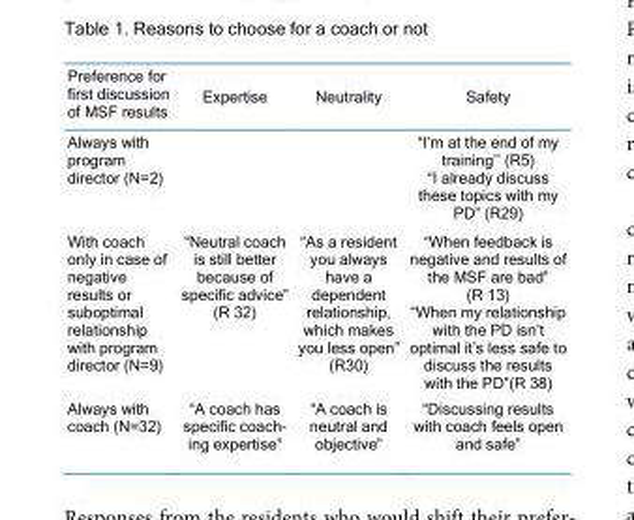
<table><thead><tr><td>Preference for first discussion of MSF results</td><td>Expertise</td><td>Neutrality</td><td>Safety</td></tr></thead><tbody><tr><td>Always with program director (N=2)</td><td></td><td></td><td>“I’m at the end of my training’’ (R5) “I already discuss these topics with my PD” (R29)</td></tr><tr><td>With coach only in case of negative results or suboptimal relationship with program director (N=9)</td><td>“Neutral coach is still better because of specific advice” (R 32)</td><td>“As a resident you always have a dependent relationship, which makes you less open” (R30)</td><td>“When feedback is negative and results of the MSF are bad” (R 13) “When my relationship with the PD isn’t optimal it’s less safe to discuss the results with the PD”(R 38)</td></tr><tr><td>Always with coach (N=32)</td><td>“A coach has specific coach- ing expertise”</td><td>“A coach is neutral and objective”</td><td>“Discussing results with coach feels open and safe”</td></tr></tbody></table>